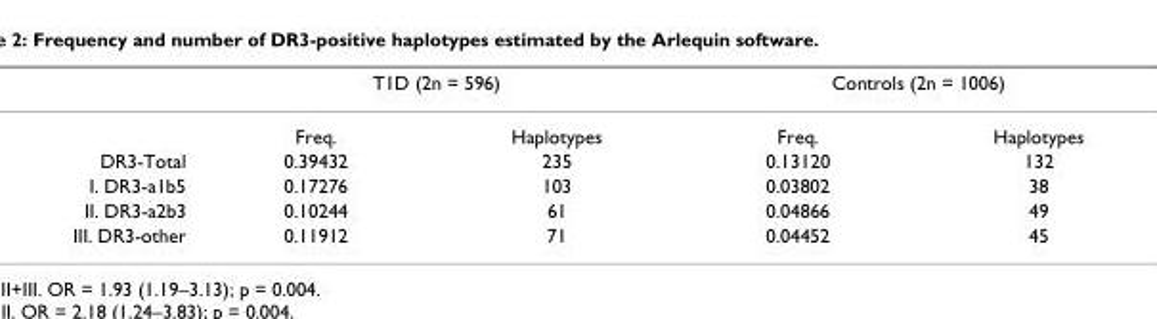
<table><thead><tr><td rowspan="2"></td><td colspan="2">T1D (2n = 596)</td><td colspan="2">Controls (2n = 1006)</td></tr><tr><td>Freq.</td><td>Haplotypes</td><td>Freq.</td><td>Haplotypes</td></tr></thead><tbody><tr><td>DR3-Total</td><td>0.39432</td><td>235</td><td>0.13120</td><td>132</td></tr><tr><td>I. DR3-a1b5</td><td>0.17276</td><td>103</td><td>0.03802</td><td>38</td></tr><tr><td>II. DR3-a2b3</td><td>0.10244</td><td>61</td><td>0.04866</td><td>49</td></tr><tr><td>III. DR3-other</td><td>0.11912</td><td>71</td><td>0.04452</td><td>45</td></tr></tbody></table>